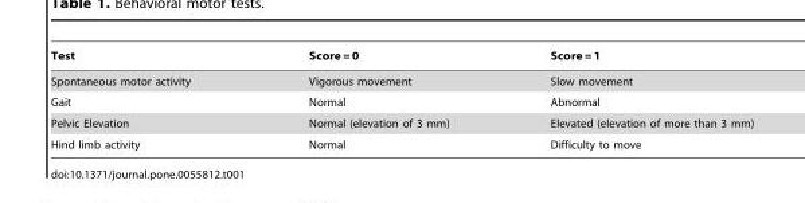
<table><thead><tr><td>Test</td><td>Score = 0</td><td>Score = 1</td></tr></thead><tbody><tr><td>Spontaneous motor activity</td><td>Vigorous movement</td><td>Slow movement</td></tr><tr><td>Gait</td><td>Normal</td><td>Abnormal</td></tr><tr><td>Pelvic Elevation</td><td>Normal (elevation of 3 mm)</td><td>Elevated (elevation of more than 3 mm)</td></tr><tr><td>Hind limb activity</td><td>Normal</td><td>Difficulty to move</td></tr></tbody></table>